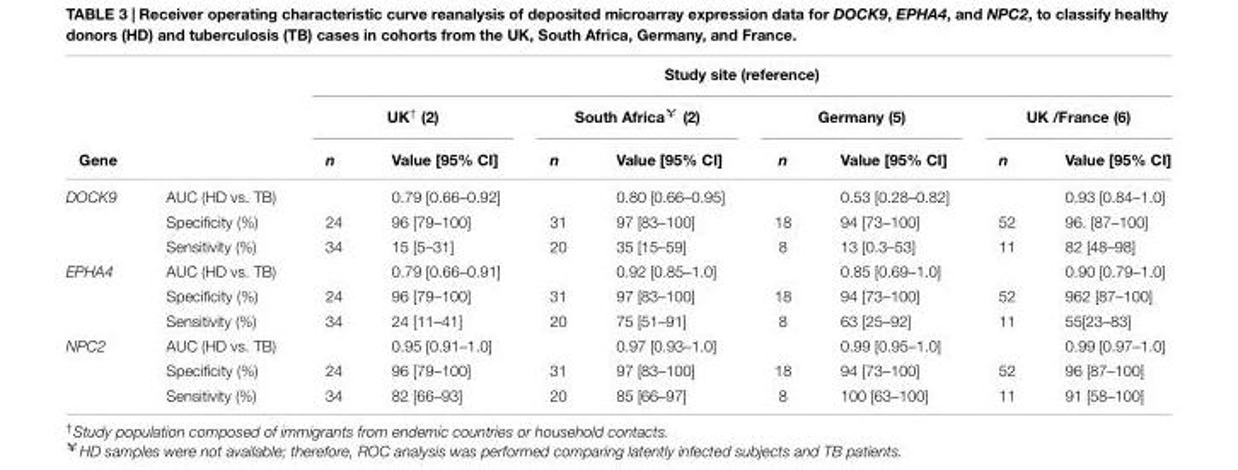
<table><thead><tr><td rowspan="3">Gene</td><td rowspan="3"></td><td colspan="8">Study site (reference)</td></tr><tr><td colspan="2">UK<sup>†</sup> (2)</td><td colspan="2">South Africa<sup>¥</sup> (2)</td><td colspan="2">Germany (5)</td><td colspan="2">UK /France (6)</td></tr><tr><td>n</td><td>Value [95% CI]</td><td>n</td><td>Value [95% CI]</td><td>n</td><td>Value [95% CI]</td><td>n</td><td>Value [95% CI]</td></tr></thead><tbody><tr><td rowspan="3">DOCK9</td><td>AUC (HD vs. TB)</td><td></td><td>0.79 [0.66–0.92]</td><td></td><td>0.80 [0.66–0.95]</td><td></td><td>0.53 [0.28–0.82]</td><td></td><td>0.93 [0.84–1.0]</td></tr><tr><td>Specificity (%)</td><td>24</td><td>96 [79–100]</td><td>31</td><td>97 [83–100]</td><td>18</td><td>94 [73–100]</td><td>52</td><td>96. [87–100]</td></tr><tr><td>Sensitivity (%)</td><td>34</td><td>15 [5–31]</td><td>20</td><td>35 [15–59]</td><td>8</td><td>13 [0.3–53]</td><td>11</td><td>82 [48–98]</td></tr><tr><td rowspan="3">EPHA4</td><td>AUC (HD vs. TB)</td><td></td><td>0.79 [0.66–0.91]</td><td></td><td>0.92 [0.85–1.0]</td><td></td><td>0.85 [0.69–1.0]</td><td></td><td>0.90 [0.79–1.0]</td></tr><tr><td>Specificity (%)</td><td>24</td><td>96 [79–100]</td><td>31</td><td>97 [83–100]</td><td>18</td><td>94 [73–100]</td><td>52</td><td>962 [87–100]</td></tr><tr><td>Sensitivity (%)</td><td>34</td><td>24 [11–41]</td><td>20</td><td>75 [51–91]</td><td>8</td><td>63 [25–92]</td><td>11</td><td>55[23–83]</td></tr><tr><td rowspan="3">NPC2</td><td>AUC (HD vs. TB)</td><td></td><td>0.95 [0.91–1.0]</td><td></td><td>0.97 [0.93–1.0]</td><td></td><td>0.99 [0.95–1.0]</td><td></td><td>0.99 [0.97–1.0]</td></tr><tr><td>Specificity (%)</td><td>24</td><td>96 [79–100]</td><td>31</td><td>97 [83–100]</td><td>18</td><td>94 [73–100]</td><td>52</td><td>96 [87–100]</td></tr><tr><td>Sensitivity (%)</td><td>34</td><td>82 [66–93]</td><td>20</td><td>85 [66–97]</td><td>8</td><td>100 [63–100]</td><td>11</td><td>91 [58–100]</td></tr></tbody></table>